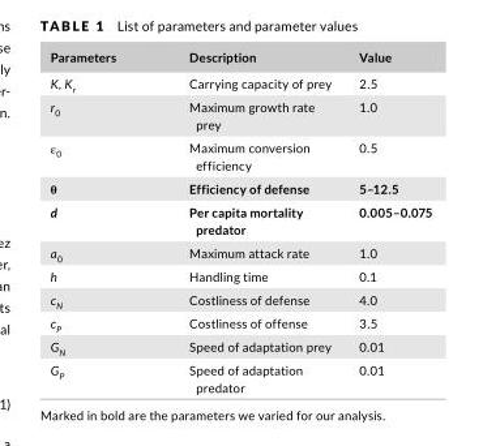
<table><thead><tr><td>Parameters</td><td>Description</td><td>Value</td></tr></thead><tbody><tr><td>K, K<sub>r</sub></td><td>Carrying capacity of prey</td><td>2.5</td></tr><tr><td>r<sub>0</sub></td><td>Maximum growth rate prey</td><td>1.0</td></tr><tr><td>ε<sub>0</sub></td><td>Maximum conversion efficiency</td><td>0.5</td></tr><tr><td>θ</td><td>Efficiency of defense</td><td>5–12.5</td></tr><tr><td>d</td><td>Per capita mortality predator</td><td>0.005–0.075</td></tr><tr><td>a<sub>0</sub></td><td>Maximum attack rate</td><td>1.0</td></tr><tr><td>h</td><td>Handling time</td><td>0.1</td></tr><tr><td>c<sub>N</sub></td><td>Costliness of defense</td><td>4.0</td></tr><tr><td>c<sub>P</sub></td><td>Costliness of offense</td><td>3.5</td></tr><tr><td>G<sub>N</sub></td><td>Speed of adaptation prey</td><td>0.01</td></tr><tr><td>G<sub>P</sub></td><td>Speed of adaptation predator</td><td>0.01</td></tr></tbody></table>